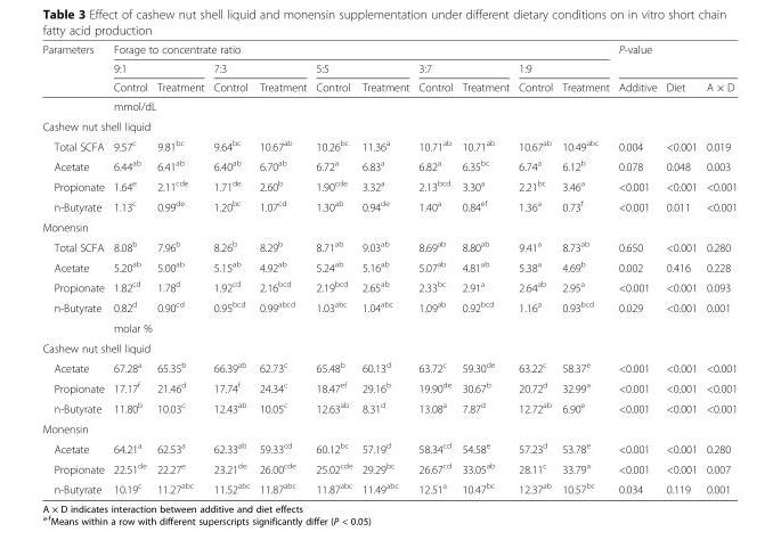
<table><thead><tr><td rowspan="3">Parameters</td><td colspan="10">Forage to concentrate ratio</td><td rowspan="2" colspan="3">P-value</td></tr><tr><td colspan="2">9:1</td><td colspan="2">7:3</td><td colspan="2">5:5</td><td colspan="2">3:7</td><td colspan="2">1:9</td></tr><tr><td>Control</td><td>Treatment</td><td>Control</td><td>Treatment</td><td>Control</td><td>Treatment</td><td>Control</td><td>Treatment</td><td>Control</td><td>Treatment</td><td>Additive</td><td>Diet</td><td>A × D</td></tr></thead><tbody><tr><td></td><td colspan="10">mmol/dL</td><td></td><td></td><td></td></tr><tr><td colspan="14">Cashew nut shell liquid</td></tr><tr><td>Total SCFA</td><td>9.57<sup>c</sup></td><td>9.81<sup>bc</sup></td><td>9.64<sup>bc</sup></td><td>10.67<sup>ab</sup></td><td>10.26<sup>bc</sup></td><td>11.36<sup>a</sup></td><td>10.71<sup>ab</sup></td><td>10.71<sup>ab</sup></td><td>10.67<sup>ab</sup></td><td>10.49<sup>abc</sup></td><td>0.004</td><td>&lt;0.001</td><td>0.019</td></tr><tr><td>Acetate</td><td>6.44<sup>ab</sup></td><td>6.41<sup>ab</sup></td><td>6.40<sup>ab</sup></td><td>6.70<sup>ab</sup></td><td>6.72<sup>a</sup></td><td>6.83<sup>a</sup></td><td>6.82<sup>a</sup></td><td>6.35<sup>bc</sup></td><td>6.74<sup>a</sup></td><td>6.12<sup>b</sup></td><td>0.078</td><td>0.048</td><td>0.003</td></tr><tr><td>Propionate</td><td>1.64<sup>e</sup></td><td>2.11<sup>cde</sup></td><td>1.71<sup>de</sup></td><td>2.60<sup>b</sup></td><td>1.90<sup>cde</sup></td><td>3.32<sup>a</sup></td><td>2.13<sup>bcd</sup></td><td>3.30<sup>a</sup></td><td>2.21<sup>bc</sup></td><td>3.46<sup>a</sup></td><td>&lt;0.001</td><td>&lt;0.001</td><td>&lt;0.001</td></tr><tr><td>n-Butyrate</td><td>1.13<sup>c</sup></td><td>0.99<sup>de</sup></td><td>1.20<sup>bc</sup></td><td>1.07<sup>cd</sup></td><td>1.30<sup>ab</sup></td><td>0.94<sup>de</sup></td><td>1.40<sup>a</sup></td><td>0.84<sup>ef</sup></td><td>1.36<sup>a</sup></td><td>0.73<sup>f</sup></td><td>&lt;0.001</td><td>0.011</td><td>&lt;0.001</td></tr><tr><td colspan="14">Monensin</td></tr><tr><td>Total SCFA</td><td>8.08<sup>b</sup></td><td>7.96<sup>b</sup></td><td>8.26<sup>b</sup></td><td>8.29<sup>b</sup></td><td>8.71<sup>ab</sup></td><td>9.03<sup>ab</sup></td><td>8.69<sup>ab</sup></td><td>8.80<sup>ab</sup></td><td>9.41<sup>a</sup></td><td>8.73<sup>ab</sup></td><td>0.650</td><td>&lt;0.001</td><td>0.280</td></tr><tr><td>Acetate</td><td>5.20<sup>ab</sup></td><td>5.00<sup>ab</sup></td><td>5.15<sup>ab</sup></td><td>4.92<sup>ab</sup></td><td>5.24<sup>ab</sup></td><td>5.16<sup>ab</sup></td><td>5.07<sup>ab</sup></td><td>4.81<sup>ab</sup></td><td>5.38<sup>a</sup></td><td>4.69<sup>b</sup></td><td>0.002</td><td>0.416</td><td>0.228</td></tr><tr><td>Propionate</td><td>1.82<sup>cd</sup></td><td>1.78<sup>d</sup></td><td>1.92<sup>cd</sup></td><td>2.16<sup>bcd</sup></td><td>2.19<sup>bcd</sup></td><td>2.65<sup>ab</sup></td><td>2.33<sup>bc</sup></td><td>2.91<sup>a</sup></td><td>2.64<sup>ab</sup></td><td>2.95<sup>a</sup></td><td>&lt;0.001</td><td>&lt;0.001</td><td>0.093</td></tr><tr><td rowspan="2">n-Butyrate</td><td>0.82<sup>d</sup></td><td>0.90<sup>cd</sup></td><td>0.95<sup>bcd</sup></td><td>0.99<sup>abcd</sup></td><td>1.03<sup>abc</sup></td><td>1.04<sup>abc</sup></td><td>1.09<sup>ab</sup></td><td>0.92<sup>bcd</sup></td><td>1.16<sup>a</sup></td><td>0.93<sup>bcd</sup></td><td>0.029</td><td>&lt;0.001</td><td>0.001</td></tr><tr><td colspan="10">molar %</td><td></td><td></td><td></td></tr><tr><td colspan="14">Cashew nut shell liquid</td></tr><tr><td>Acetate</td><td>67.28<sup>a</sup></td><td>65.35<sup>b</sup></td><td>66.39<sup>ab</sup></td><td>62.73<sup>c</sup></td><td>65.48<sup>b</sup></td><td>60.13<sup>d</sup></td><td>63.72<sup>c</sup></td><td>59.30<sup>de</sup></td><td>63.22<sup>c</sup></td><td>58.37<sup>e</sup></td><td>&lt;0.001</td><td>&lt;0.001</td><td>&lt;0.001</td></tr><tr><td>Propionate</td><td>17.17<sup>f</sup></td><td>21.46<sup>d</sup></td><td>17.74<sup>f</sup></td><td>24.34<sup>c</sup></td><td>18.47<sup>ef</sup></td><td>29.16<sup>b</sup></td><td>19.90<sup>de</sup></td><td>30.67<sup>b</sup></td><td>20.72<sup>d</sup></td><td>32.99<sup>a</sup></td><td>&lt;0.001</td><td>&lt;0.001</td><td>&lt;0.001</td></tr><tr><td>n-Butyrate</td><td>11.80<sup>b</sup></td><td>10.03<sup>c</sup></td><td>12.43<sup>ab</sup></td><td>10.05<sup>c</sup></td><td>12.63<sup>ab</sup></td><td>8.31<sup>d</sup></td><td>13.08<sup>a</sup></td><td>7.87<sup>d</sup></td><td>12.72<sup>ab</sup></td><td>6.90<sup>e</sup></td><td>&lt;0.001</td><td>&lt;0.001</td><td>&lt;0.001</td></tr><tr><td colspan="14">Monensin</td></tr><tr><td>Acetate</td><td>64.21<sup>a</sup></td><td>62.53<sup>a</sup></td><td>62.33<sup>ab</sup></td><td>59.33<sup>cd</sup></td><td>60.12<sup>bc</sup></td><td>57.19<sup>d</sup></td><td>58.34<sup>cd</sup></td><td>54.58<sup>e</sup></td><td>57.23<sup>d</sup></td><td>53.78<sup>e</sup></td><td>&lt;0.001</td><td>&lt;0.001</td><td>0.280</td></tr><tr><td>Propionate</td><td>22.51<sup>de</sup></td><td>22.27<sup>e</sup></td><td>23.21<sup>de</sup></td><td>26.00<sup>cde</sup></td><td>25.02<sup>cde</sup></td><td>29.29<sup>bc</sup></td><td>26.67<sup>cd</sup></td><td>33.05<sup>ab</sup></td><td>28.11<sup>c</sup></td><td>33.79<sup>a</sup></td><td>&lt;0.001</td><td>&lt;0.001</td><td>0.007</td></tr><tr><td>n-Butyrate</td><td>10.19<sup>c</sup></td><td>11.27<sup>abc</sup></td><td>11.52<sup>abc</sup></td><td>11.87<sup>abc</sup></td><td>11.87<sup>abc</sup></td><td>11.49<sup>abc</sup></td><td>12.51<sup>a</sup></td><td>10.47<sup>bc</sup></td><td>12.37<sup>ab</sup></td><td>10.57<sup>bc</sup></td><td>0.034</td><td>0.119</td><td>0.001</td></tr></tbody></table>